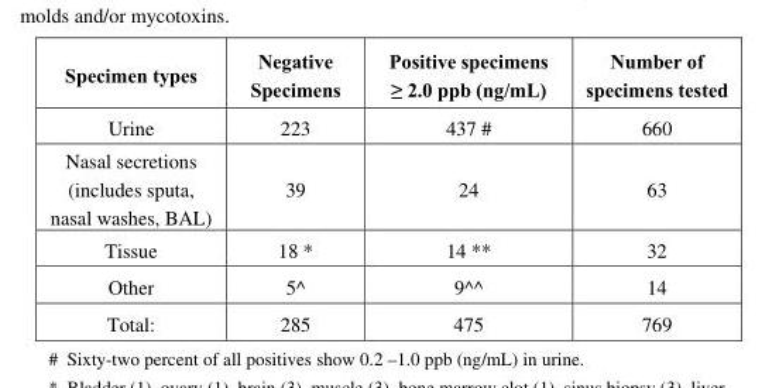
<table><thead><tr><td>Specimen types</td><td>Negative Specimens</td><td>Positive specimens ≥ 2.0 ppb (ng/mL)</td><td>Number of specimens tested</td></tr></thead><tbody><tr><td>Urine</td><td>223</td><td>437 #</td><td>660</td></tr><tr><td>Nasal secretions (includes sputa, nasal washes, BAL)</td><td>39</td><td>24</td><td>63</td></tr><tr><td>Tissue</td><td>18 *</td><td>14 **</td><td>32</td></tr><tr><td>Other</td><td>5^</td><td>9^^</td><td>14</td></tr><tr><td>Total:</td><td>285</td><td>475</td><td>769</td></tr></tbody></table>